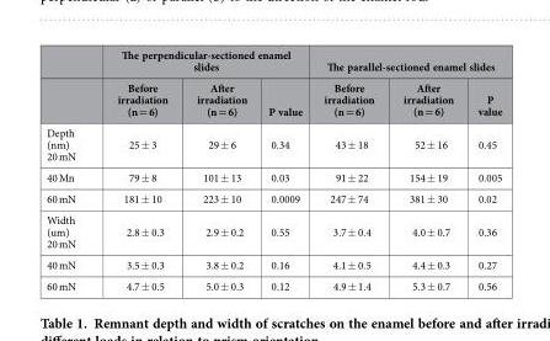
<table><thead><tr><td rowspan="2"></td><td colspan="3">The perpendicular-sectioned enamel slides</td><td colspan="3">The parallel-sectioned enamel slides</td></tr><tr><td>Before irradiation (n = 6)</td><td>After irradiation (n = 6)</td><td>P value</td><td>Before irradiation (n = 6)</td><td>After irradiation (n = 6)</td><td>P value</td></tr></thead><tbody><tr><td>Depth (nm) 20 mN</td><td>25 ± 3</td><td>29 ± 6</td><td>0.34</td><td>43 ± 18</td><td>52 ± 16</td><td>0.45</td></tr><tr><td>40 Mn</td><td>79 ± 8</td><td>101 ± 13</td><td>0.03</td><td>91 ± 22</td><td>154 ± 19</td><td>0.005</td></tr><tr><td>60 mN</td><td>181 ± 10</td><td>223 ± 10</td><td>0.0009</td><td>247 ± 74</td><td>381 ± 30</td><td>0.02</td></tr><tr><td>Width (um) 20 mN</td><td>2.8 ± 0.3</td><td>2.9 ± 0.2</td><td>0.55</td><td>3.7 ± 0.4</td><td>4.0 ± 0.7</td><td>0.36</td></tr><tr><td>40 mN</td><td>3.5 ± 0.3</td><td>3.8 ± 0.2</td><td>0.16</td><td>4.1 ± 0.5</td><td>4.4 ± 0.3</td><td>0.27</td></tr><tr><td>60 mN</td><td>4.7 ± 0.5</td><td>5.0 ± 0.3</td><td>0.12</td><td>4.9 ± 1.4</td><td>5.3 ± 0.7</td><td>0.56</td></tr></tbody></table>